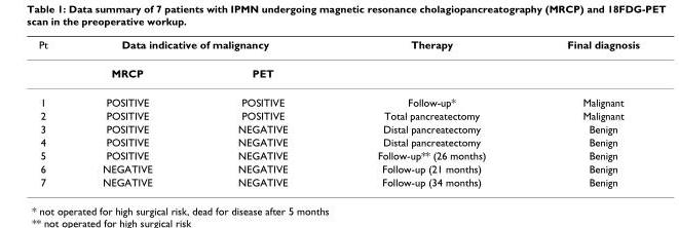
<table><thead><tr><td rowspan="2">Pt</td><td colspan="2">Data indicative of malignancy</td><td rowspan="2">Therapy</td><td rowspan="2">Final diagnosis</td></tr><tr><td>MRCP</td><td>PET</td></tr></thead><tbody><tr><td>1</td><td>POSITIVE</td><td>POSITIVE</td><td>Follow-up*</td><td>Malignant</td></tr><tr><td>2</td><td>POSITIVE</td><td>POSITIVE</td><td>Total pancreatectomy</td><td>Malignant</td></tr><tr><td>3</td><td>POSITIVE</td><td>NEGATIVE</td><td>Distal pancreatectomy</td><td>Benign</td></tr><tr><td>4</td><td>POSITIVE</td><td>NEGATIVE</td><td>Distal pancreatectomy</td><td>Benign</td></tr><tr><td>5</td><td>POSITIVE</td><td>NEGATIVE</td><td>Follow-up** (26 months)</td><td>Benign</td></tr><tr><td>6</td><td>NEGATIVE</td><td>NEGATIVE</td><td>Follow-up (21 months)</td><td>Benign</td></tr><tr><td>7</td><td>NEGATIVE</td><td>NEGATIVE</td><td>Follow-up (34 months)</td><td>Benign</td></tr></tbody></table>